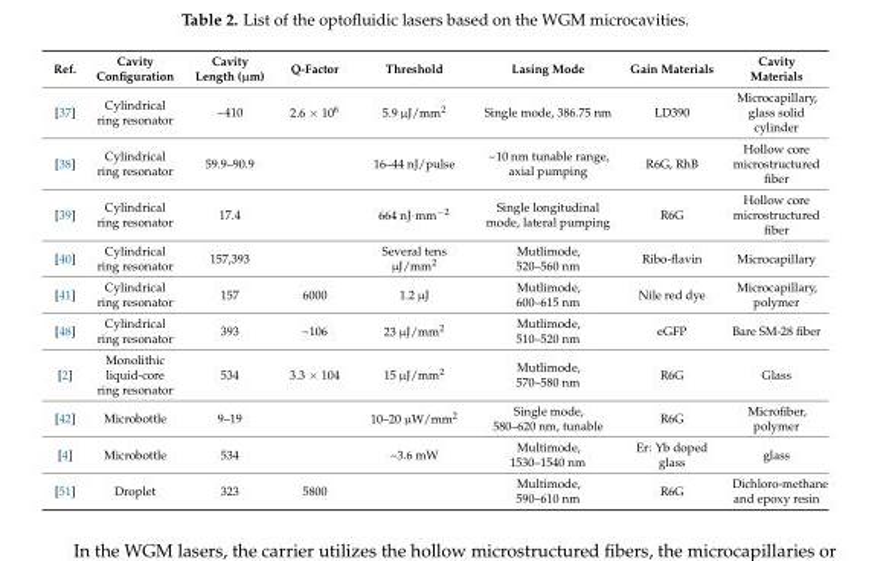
<table><thead><tr><td>Ref.</td><td>Cavity Configuration</td><td>Cavity Length (µm)</td><td>Q-Factor</td><td>Threshold</td><td>Lasing Mode</td><td>Gain Materials</td><td>Cavity Materials</td></tr></thead><tbody><tr><td>[37]</td><td>Cylindrical ring resonator</td><td>~410</td><td>2.6 × 10<sup>6</sup></td><td>5.9 µJ/mm<sup>2</sup></td><td>Single mode, 386.75 nm</td><td>LD390</td><td>Microcapillary, glass solid cylinder</td></tr><tr><td>[38]</td><td>Cylindrical ring resonator</td><td>59.9–90.9</td><td></td><td>16–44 nJ/pulse</td><td>~10 nm tunable range, axial pumping</td><td>R6G, RhB</td><td>Hollow core microstructured fiber</td></tr><tr><td>[39]</td><td>Cylindrical ring resonator</td><td>17.4</td><td></td><td>664 nJ·mm<sup>−2</sup></td><td>Single longitudinal mode, lateral pumping</td><td>R6G</td><td>Hollow core microstructured fiber</td></tr><tr><td>[40]</td><td>Cylindrical ring resonator</td><td>157,393</td><td></td><td>Several tens µJ/mm<sup>2</sup></td><td>Mutlimode, 520–560 nm</td><td>Ribo-flavin</td><td>Microcapillary</td></tr><tr><td>[41]</td><td>Cylindrical ring resonator</td><td>157</td><td>6000</td><td>1.2 µJ</td><td>Mutlimode, 600–615 nm</td><td>Nile red dye</td><td>Microcapillary, polymer</td></tr><tr><td>[48]</td><td>Cylindrical ring resonator</td><td>393</td><td>~106</td><td>23 µJ/mm<sup>2</sup></td><td>Mutlimode, 510–520 nm</td><td>eGFP</td><td>Bare SM-28 fiber</td></tr><tr><td>[2]</td><td>Monolithic liquid-core ring resonator</td><td>534</td><td>3.3 × 104</td><td>15 µJ/mm<sup>2</sup></td><td>Mutlimode, 570–580 nm</td><td>R6G</td><td>Glass</td></tr><tr><td>[42]</td><td>Microbottle</td><td>9–19</td><td></td><td>10–20 µW/mm<sup>2</sup></td><td>Single mode, 580–620 nm, tunable</td><td>R6G</td><td>Microfiber, polymer</td></tr><tr><td>[4]</td><td>Microbottle</td><td>534</td><td></td><td>~3.6 mW</td><td>Multimode, 1530–1540 nm</td><td>Er: Yb doped glass</td><td>glass</td></tr><tr><td>[51]</td><td>Droplet</td><td>323</td><td>5800</td><td></td><td>Multimode, 590–610 nm</td><td>R6G</td><td>Dichloro-methane and epoxy resin</td></tr></tbody></table>